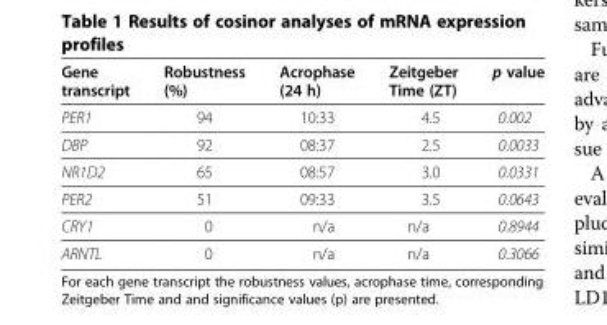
<table><thead><tr><td>Gene transcript</td><td>Robustness (%)</td><td>Acrophase (24 h)</td><td>Zeitgeber Time (ZT)</td><td>p value</td></tr></thead><tbody><tr><td>PER1</td><td>94</td><td>10:33</td><td>4.5</td><td>0.002</td></tr><tr><td>DBP</td><td>92</td><td>08:37</td><td>2.5</td><td>0.0033</td></tr><tr><td>NR1D2</td><td>65</td><td>08:57</td><td>3.0</td><td>0.0331</td></tr><tr><td>PER2</td><td>51</td><td>09:33</td><td>3.5</td><td>0.0643</td></tr><tr><td>CRY1</td><td>0</td><td>n/a</td><td>n/a</td><td>0.8944</td></tr><tr><td>ARNTL</td><td>0</td><td>n/a</td><td>n/a</td><td>0.3066</td></tr></tbody></table>